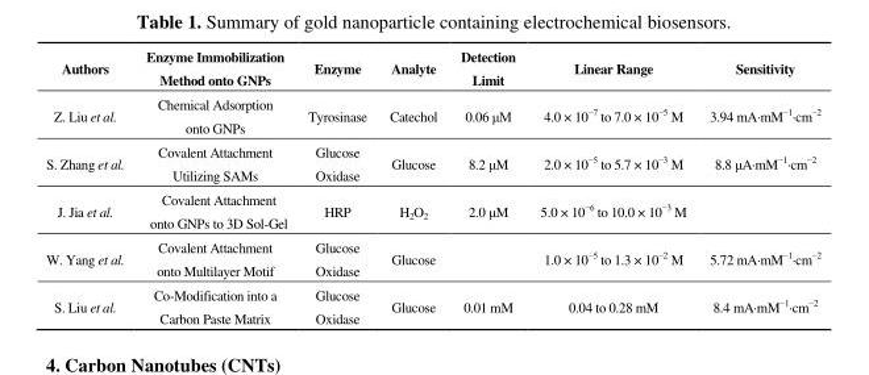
<table><thead><tr><td>Authors</td><td>Enzyme Immobilization Method onto GNPs</td><td>Enzyme</td><td>Analyte</td><td>Detection Limit</td><td>Linear Range</td><td>Sensitivity</td></tr></thead><tbody><tr><td>Z. Liu et al.</td><td>Chemical Adsorption onto GNPs</td><td>Tyrosinase</td><td>Catechol</td><td>0.06 μM</td><td>4.0 × 10<sup>−7</sup> to 7.0 × 10<sup>−5</sup> M</td><td>3.94 mA·mM<sup>−1</sup>·cm<sup>−2</sup></td></tr><tr><td>S. Zhang et al.</td><td>Covalent Attachment Utilizing SAMs</td><td>Glucose Oxidase</td><td>Glucose</td><td>8.2 μM</td><td>2.0 × 10<sup>−5</sup> to 5.7 × 10<sup>−3</sup> M</td><td>8.8 μA·mM<sup>−1</sup>·cm<sup>−2</sup></td></tr><tr><td>J. Jia et al.</td><td>Covalent Attachment onto GNPs to 3D Sol-Gel</td><td>HRP</td><td>H<sub>2</sub>O<sub>2</sub></td><td>2.0 μM</td><td>5.0 × 10<sup>−6</sup> to 10.0 × 10<sup>−3</sup> M</td><td></td></tr><tr><td>W. Yang et al.</td><td>Covalent Attachment onto Multilayer Motif</td><td>Glucose Oxidase</td><td>Glucose</td><td></td><td>1.0 × 10<sup>−5</sup> to 1.3 × 10<sup>−2</sup> M</td><td>5.72 mA·mM<sup>−1</sup>·cm<sup>−2</sup></td></tr><tr><td>S. Liu et al.</td><td>Co-Modification into a Carbon Paste Matrix</td><td>Glucose Oxidase</td><td>Glucose</td><td>0.01 mM</td><td>0.04 to 0.28 mM</td><td>8.4 mA·mM<sup>−1</sup>·cm<sup>−2</sup></td></tr></tbody></table>